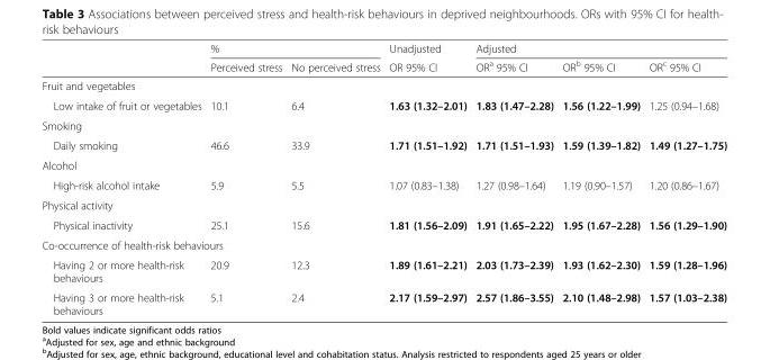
<table><thead><tr><td rowspan="2"></td><td colspan="2">%</td><td rowspan="2">Unadjusted OR 95% CI</td><td colspan="3">Adjusted</td></tr><tr><td>Perceived stress</td><td>No perceived stress</td><td>OR<sup>a</sup> 95% CI</td><td>OR<sup>b</sup> 95% CI</td><td>OR<sup>c</sup> 95% CI</td></tr></thead><tbody><tr><td colspan="7">Fruit and vegetables</td></tr><tr><td>Low intake of fruit or vegetables</td><td>10.1</td><td>6.4</td><td>1.63 (1.32–2.01)</td><td>1.83 (1.47–2.28)</td><td>1.56 (1.22–1.99)</td><td>1.25 (0.94–1.68)</td></tr><tr><td colspan="7">Smoking</td></tr><tr><td>Daily smoking</td><td>46.6</td><td>33.9</td><td>1.71 (1.51–1.92)</td><td>1.71 (1.51–1.93)</td><td>1.59 (1.39–1.82)</td><td>1.49 (1.27–1.75)</td></tr><tr><td colspan="7">Alcohol</td></tr><tr><td>High-risk alcohol intake</td><td>5.9</td><td>5.5</td><td>1.07 (0.83–1.38)</td><td>1.27 (0.98–1.64)</td><td>1.19 (0.90–1.57)</td><td>1.20 (0.86–1.67)</td></tr><tr><td colspan="7">Physical activity</td></tr><tr><td>Physical inactivity</td><td>25.1</td><td>15.6</td><td>1.81 (1.56–2.09)</td><td>1.91 (1.65–2.22)</td><td>1.95 (1.67–2.28)</td><td>1.56 (1.29–1.90)</td></tr><tr><td colspan="7">Co-occurrence of health-risk behaviours</td></tr><tr><td>Having 2 or more health-risk behaviours</td><td>20.9</td><td>12.3</td><td>1.89 (1.61–2.21)</td><td>2.03 (1.73–2.39)</td><td>1.93 (1.62–2.30)</td><td>1.59 (1.28–1.96)</td></tr><tr><td>Having 3 or more health-risk behaviours</td><td>5.1</td><td>2.4</td><td>2.17 (1.59–2.97)</td><td>2.57 (1.86–3.55)</td><td>2.10 (1.48–2.98)</td><td>1.57 (1.03–2.38)</td></tr></tbody></table>